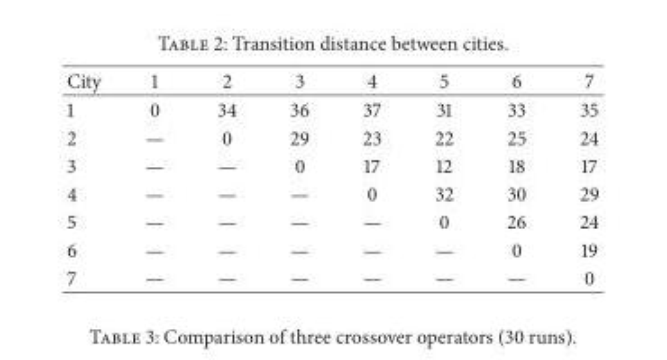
<table><thead><tr><td>City</td><td>1</td><td>2</td><td>3</td><td>4</td><td>5</td><td>6</td><td>7</td></tr></thead><tbody><tr><td>1</td><td>0</td><td>34</td><td>36</td><td>37</td><td>31</td><td>33</td><td>35</td></tr><tr><td>2</td><td>—</td><td>0</td><td>29</td><td>23</td><td>22</td><td>25</td><td>24</td></tr><tr><td>3</td><td>—</td><td>—</td><td>0</td><td>17</td><td>12</td><td>18</td><td>17</td></tr><tr><td>4</td><td>—</td><td>—</td><td>—</td><td>0</td><td>32</td><td>30</td><td>29</td></tr><tr><td>5</td><td>—</td><td>—</td><td>—</td><td>—</td><td>0</td><td>26</td><td>24</td></tr><tr><td>6</td><td>—</td><td>—</td><td>—</td><td>—</td><td>—</td><td>0</td><td>19</td></tr><tr><td>7</td><td>—</td><td>—</td><td>—</td><td>—</td><td>—</td><td>—</td><td>0</td></tr></tbody></table>